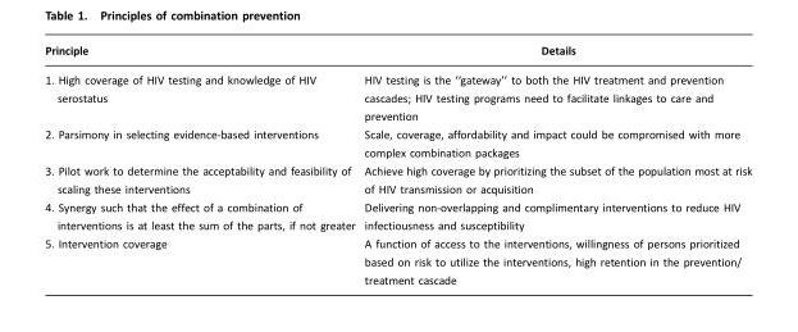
<table><thead><tr><td>Principle</td><td>Details</td></tr></thead><tbody><tr><td>1. High coverage of HIV testing and knowledge of HIV serostatus</td><td>HIV testing is the ‘‘gateway’’ to both the HIV treatment and prevention cascades; HIV testing programs need to facilitate linkages to care and prevention</td></tr><tr><td>2. Parsimony in selecting evidence-based interventions</td><td>Scale, coverage, affordability and impact could be compromised with more complex combination packages</td></tr><tr><td>3. Pilot work to determine the acceptability and feasibility of scaling these interventions</td><td>Achieve high coverage by prioritizing the subset of the population most at risk of HIV transmission or acquisition</td></tr><tr><td>4. Synergy such that the effect of a combination of interventions is at least the sum of the parts, if not greater</td><td>Delivering non-overlapping and complimentary interventions to reduce HIV infectiousness and susceptibility</td></tr><tr><td>5. Intervention coverage</td><td>A function of access to the interventions, willingness of persons prioritized based on risk to utilize the interventions, high retention in the prevention/ treatment cascade</td></tr></tbody></table>